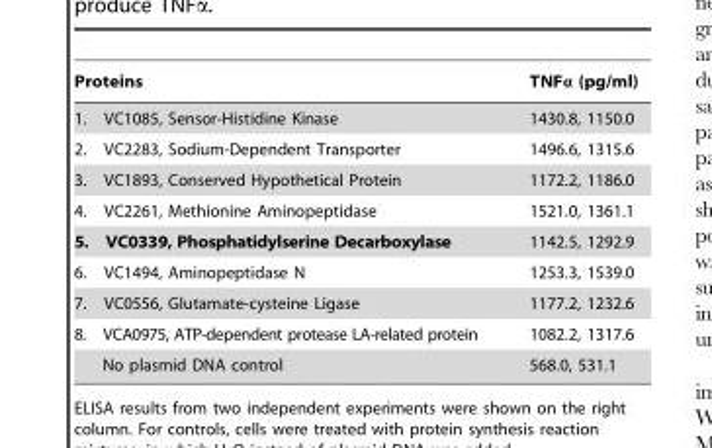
<table><thead><tr><td>Proteins</td><td>TNFα (pg/ml)</td></tr></thead><tbody><tr><td>1. VC1085, Sensor-Histidine Kinase</td><td>1430.8, 1150.0</td></tr><tr><td>2. VC2283, Sodium-Dependent Transporter</td><td>1496.6, 1315.6</td></tr><tr><td>3. VC1893, Conserved Hypothetical Protein</td><td>1172.2, 1186.0</td></tr><tr><td>4. VC2261, Methionine Aminopeptidase</td><td>1521.0, 1361.1</td></tr><tr><td>5. VC0339, Phosphatidylserine Decarboxylase</td><td>1142.5, 1292.9</td></tr><tr><td>6. VC1494, Aminopeptidase N</td><td>1253.3, 1539.0</td></tr><tr><td>7. VC0556, Glutamate-cysteine Ligase</td><td>1177.2, 1232.6</td></tr><tr><td>8. VCA0975, ATP-dependent protease LA-related protein</td><td>1082.2, 1317.6</td></tr><tr><td>No plasmid DNA control</td><td>568.0, 531.1</td></tr></tbody></table>